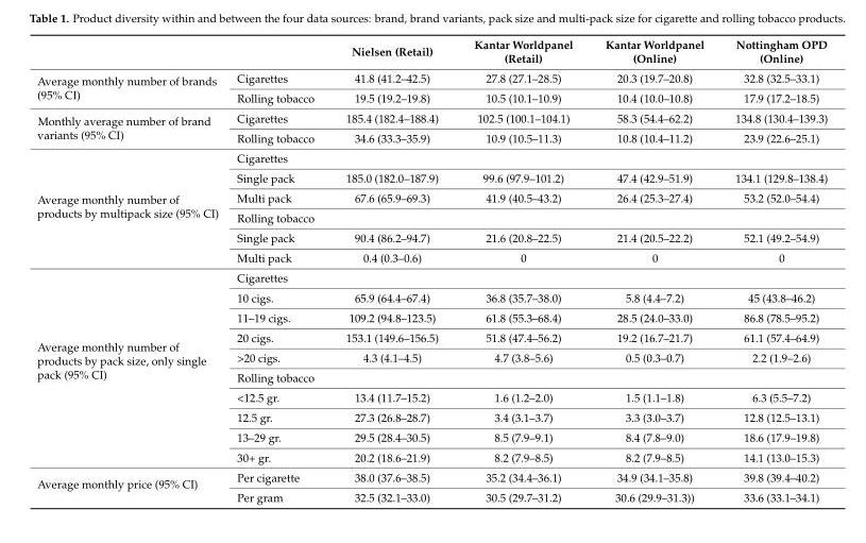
<table><thead><tr><td></td><td></td><td>Nielsen (Retail)</td><td>Kantar Worldpanel (Retail)</td><td>Kantar Worldpanel (Online)</td><td>Nottingham OPD (Online)</td></tr></thead><tbody><tr><td rowspan="2">Average monthly number of brands (95% CI)</td><td>Cigarettes</td><td>41.8 (41.2–42.5)</td><td>27.8 (27.1–28.5)</td><td>20.3 (19.7–20.8)</td><td>32.8 (32.5–33.1)</td></tr><tr><td>Rolling tobacco</td><td>19.5 (19.2–19.8)</td><td>10.5 (10.1–10.9)</td><td>10.4 (10.0–10.8)</td><td>17.9 (17.2–18.5)</td></tr><tr><td rowspan="2">Monthly average number of brand variants (95% CI)</td><td>Cigarettes</td><td>185.4 (182.4–188.4)</td><td>102.5 (100.1–104.1)</td><td>58.3 (54.4–62.2)</td><td>134.8 (130.4–139.3)</td></tr><tr><td>Rolling tobacco</td><td>34.6 (33.3–35.9)</td><td>10.9 (10.5–11.3)</td><td>10.8 (10.4–11.2)</td><td>23.9 (22.6–25.1)</td></tr><tr><td rowspan="6">Average monthly number of products by multipack size (95% CI)</td><td>Cigarettes</td><td></td><td></td><td></td><td></td></tr><tr><td>Single pack</td><td>185.0 (182.0–187.9)</td><td>99.6 (97.9–101.2)</td><td>47.4 (42.9–51.9)</td><td>134.1 (129.8–138.4)</td></tr><tr><td>Multi pack</td><td>67.6 (65.9–69.3)</td><td>41.9 (40.5–43.2)</td><td>26.4 (25.3–27.4)</td><td>53.2 (52.0–54.4)</td></tr><tr><td>Rolling tobacco</td><td></td><td></td><td></td><td></td></tr><tr><td>Single pack</td><td>90.4 (86.2–94.7)</td><td>21.6 (20.8–22.5)</td><td>21.4 (20.5–22.2)</td><td>52.1 (49.2–54.9)</td></tr><tr><td>Multi pack</td><td>0.4 (0.3–0.6)</td><td>0</td><td>0</td><td>0</td></tr><tr><td rowspan="10">Average monthly number of products by pack size, only single pack (95% CI)</td><td>Cigarettes</td><td></td><td></td><td></td><td></td></tr><tr><td>10 cigs.</td><td>65.9 (64.4–67.4)</td><td>36.8 (35.7–38.0)</td><td>5.8 (4.4–7.2)</td><td>45 (43.8–46.2)</td></tr><tr><td>11–19 cigs.</td><td>109.2 (94.8–123.5)</td><td>61.8 (55.3–68.4)</td><td>28.5 (24.0–33.0)</td><td>86.8 (78.5–95.2)</td></tr><tr><td>20 cigs.</td><td>153.1 (149.6–156.5)</td><td>51.8 (47.4–56.2)</td><td>19.2 (16.7–21.7)</td><td>61.1 (57.4–64.9)</td></tr><tr><td>&gt;20 cigs.</td><td>4.3 (4.1–4.5)</td><td>4.7 (3.8–5.6)</td><td>0.5 (0.3–0.7)</td><td>2.2 (1.9–2.6)</td></tr><tr><td>Rolling tobacco</td><td></td><td></td><td></td><td></td></tr><tr><td>&lt;12.5 gr.</td><td>13.4 (11.7–15.2)</td><td>1.6 (1.2–2.0)</td><td>1.5 (1.1–1.8)</td><td>6.3 (5.5–7.2)</td></tr><tr><td>12.5 gr.</td><td>27.3 (26.8–28.7)</td><td>3.4 (3.1–3.7)</td><td>3.3 (3.0–3.7)</td><td>12.8 (12.5–13.1)</td></tr><tr><td>13–29 gr.</td><td>29.5 (28.4–30.5)</td><td>8.5 (7.9–9.1)</td><td>8.4 (7.8–9.0)</td><td>18.6 (17.9–19.8)</td></tr><tr><td>30+ gr.</td><td>20.2 (18.6–21.9)</td><td>8.2 (7.9–8.5)</td><td>8.2 (7.9–8.5)</td><td>14.1 (13.0–15.3)</td></tr><tr><td rowspan="2">Average monthly price (95% CI)</td><td>Per cigarette</td><td>38.0 (37.6–38.5)</td><td>35.2 (34.4–36.1)</td><td>34.9 (34.1–35.8)</td><td>39.8 (39.4–40.2)</td></tr><tr><td>Per gram</td><td>32.5 (32.1–33.0)</td><td>30.5 (29.7–31.2)</td><td>30.6 (29.9–31.3))</td><td>33.6 (33.1–34.1)</td></tr></tbody></table>